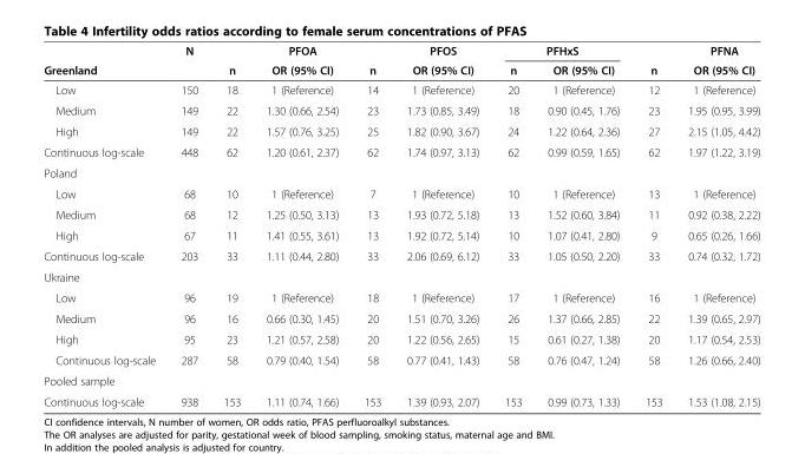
<table><thead><tr><td rowspan="2">Greenland</td><td rowspan="2">N</td><td rowspan="2">n</td><td rowspan="2">PFOA OR (95% CI)</td><td rowspan="2">n</td><td rowspan="2">PFOS OR (95% CI)</td><td colspan="2">PFHxS</td><td rowspan="2">n</td><td rowspan="2">PFNA OR (95% CI)</td></tr><tr><td>n</td><td>OR (95% CI)</td></tr></thead><tbody><tr><td>Low</td><td>150</td><td>18</td><td>1 (Reference)</td><td>14</td><td>1 (Reference)</td><td>20</td><td>1 (Reference)</td><td>12</td><td>1 (Reference)</td></tr><tr><td>Medium</td><td>149</td><td>22</td><td>1.30 (0.66, 2.54)</td><td>23</td><td>1.73 (0.85, 3.49)</td><td>18</td><td>0.90 (0.45, 1.76)</td><td>23</td><td>1.95 (0.95, 3.99)</td></tr><tr><td>High</td><td>149</td><td>22</td><td>1.57 (0.76, 3.25)</td><td>25</td><td>1.82 (0.90, 3.67)</td><td>24</td><td>1.22 (0.64, 2.36)</td><td>27</td><td>2.15 (1.05, 4.42)</td></tr><tr><td>Continuous log-scale</td><td>448</td><td>62</td><td>1.20 (0.61, 2.37)</td><td>62</td><td>1.74 (0.97, 3.13)</td><td>62</td><td>0.99 (0.59, 1.65)</td><td>62</td><td>1.97 (1.22, 3.19)</td></tr><tr><td colspan="10">Poland</td></tr><tr><td>Low</td><td>68</td><td>10</td><td>1 (Reference)</td><td>7</td><td>1 (Reference)</td><td>10</td><td>1 (Reference)</td><td>13</td><td>1 (Reference)</td></tr><tr><td>Medium</td><td>68</td><td>12</td><td>1.25 (0.50, 3.13)</td><td>13</td><td>1.93 (0.72, 5.18)</td><td>13</td><td>1.52 (0.60, 3.84)</td><td>11</td><td>0.92 (0.38, 2.22)</td></tr><tr><td>High</td><td>67</td><td>11</td><td>1.41 (0.55, 3.61)</td><td>13</td><td>1.92 (0.72, 5.14)</td><td>10</td><td>1.07 (0.41, 2.80)</td><td>9</td><td>0.65 (0.26, 1.66)</td></tr><tr><td>Continuous log-scale</td><td>203</td><td>33</td><td>1.11 (0.44, 2.80)</td><td>33</td><td>2.06 (0.69, 6.12)</td><td>33</td><td>1.05 (0.50, 2.20)</td><td>33</td><td>0.74 (0.32, 1.72)</td></tr><tr><td colspan="10">Ukraine</td></tr><tr><td>Low</td><td>96</td><td>19</td><td>1 (Reference)</td><td>18</td><td>1 (Reference)</td><td>17</td><td>1 (Reference)</td><td>16</td><td>1 (Reference)</td></tr><tr><td>Medium</td><td>96</td><td>16</td><td>0.66 (0.30, 1.45)</td><td>20</td><td>1.51 (0.70, 3.26)</td><td>26</td><td>1.37 (0.66, 2.85)</td><td>22</td><td>1.39 (0.65, 2.97)</td></tr><tr><td>High</td><td>95</td><td>23</td><td>1.21 (0.57, 2.58)</td><td>20</td><td>1.22 (0.56, 2.65)</td><td>15</td><td>0.61 (0.27, 1.38)</td><td>20</td><td>1.17 (0.54, 2.53)</td></tr><tr><td>Continuous log-scale</td><td>287</td><td>58</td><td>0.79 (0.40, 1.54)</td><td>58</td><td>0.77 (0.41, 1.43)</td><td>58</td><td>0.76 (0.47, 1.24)</td><td>58</td><td>1.26 (0.66, 2.40)</td></tr><tr><td colspan="10">Pooled sample</td></tr><tr><td>Continuous log-scale</td><td>938</td><td>153</td><td>1.11 (0.74, 1.66)</td><td>153</td><td>1.39 (0.93, 2.07)</td><td>153</td><td>0.99 (0.73, 1.33)</td><td>153</td><td>1.53 (1.08, 2.15)</td></tr></tbody></table>